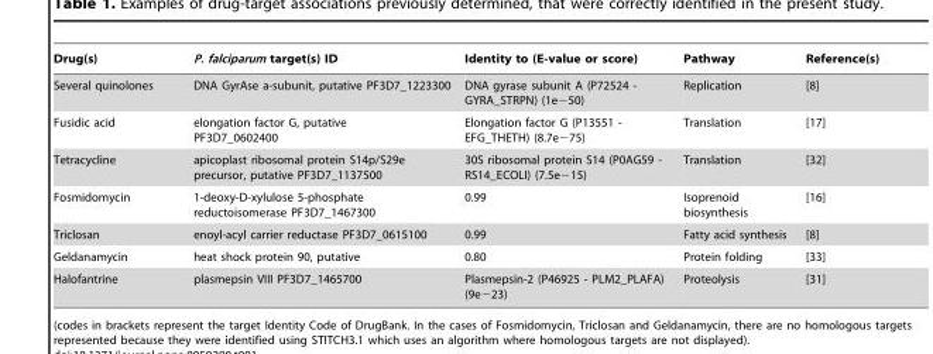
<table><thead><tr><td>Drug(s)</td><td>P. falciparum target(s) ID</td><td>Identity to (E-value or score)</td><td>Pathway</td><td>Reference(s)</td></tr></thead><tbody><tr><td>Several quinolones</td><td>DNA GyrAse a-subunit, putative PF3D7_1223300</td><td>DNA gyrase subunit A (P72524 - GYRA_STRPN) (1e−50)</td><td>Replication</td><td>[8]</td></tr><tr><td>Fusidic acid</td><td>elongation factor G, putative PF3D7_0602400</td><td>Elongation factor G (P13551 - EFG_THETH) (8.7e−75)</td><td>Translation</td><td>[17]</td></tr><tr><td>Tetracycline</td><td>apicoplast ribosomal protein S14p/S29e precursor, putative PF3D7_1137500</td><td>30S ribosomal protein S14 (P0AG59 - RS14_ECOLI) (7.5e−15)</td><td>Translation</td><td>[32]</td></tr><tr><td>Fosmidomycin</td><td>1-deoxy-D-xylulose 5-phosphate reductoisomerase PF3D7_1467300</td><td>0.99</td><td>Isoprenoid biosynthesis</td><td>[16]</td></tr><tr><td>Triclosan</td><td>enoyl-acyl carrier reductase PF3D7_0615100</td><td>0.99</td><td>Fatty acid synthesis</td><td>[8]</td></tr><tr><td>Geldanamycin</td><td>heat shock protein 90, putative</td><td>0.80</td><td>Protein folding</td><td>[33]</td></tr><tr><td>Halofantrine</td><td>plasmepsin VIII PF3D7_1465700</td><td>Plasmepsin-2 (P46925 - PLM2_PLAFA) (9e−23)</td><td>Proteolysis</td><td>[31]</td></tr></tbody></table>